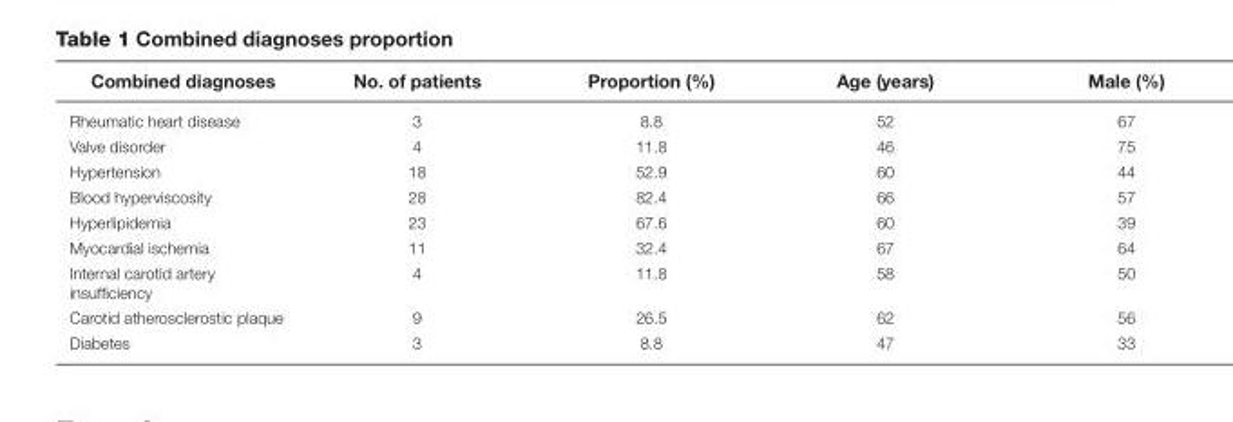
<table><thead><tr><td>Combined diagnoses</td><td>No. of patients</td><td>Proportion (%)</td><td>Age (years)</td><td>Male (%)</td></tr></thead><tbody><tr><td>Rheumatic heart disease</td><td>3</td><td>8.8</td><td>52</td><td>67</td></tr><tr><td>Valve disorder</td><td>4</td><td>11.8</td><td>46</td><td>75</td></tr><tr><td>Hypertension</td><td>18</td><td>52.9</td><td>60</td><td>44</td></tr><tr><td>Blood hyperviscosity</td><td>28</td><td>82.4</td><td>66</td><td>57</td></tr><tr><td>Hyperlipidemia</td><td>23</td><td>67.6</td><td>60</td><td>39</td></tr><tr><td>Myocardial ischemia</td><td>11</td><td>32.4</td><td>67</td><td>64</td></tr><tr><td>Internal carotid artery insufficiency</td><td>4</td><td>11.8</td><td>58</td><td>50</td></tr><tr><td>Carotid atherosclerostic plaque</td><td>9</td><td>26.5</td><td>62</td><td>56</td></tr><tr><td>Diabetes</td><td>3</td><td>8.8</td><td>47</td><td>33</td></tr></tbody></table>